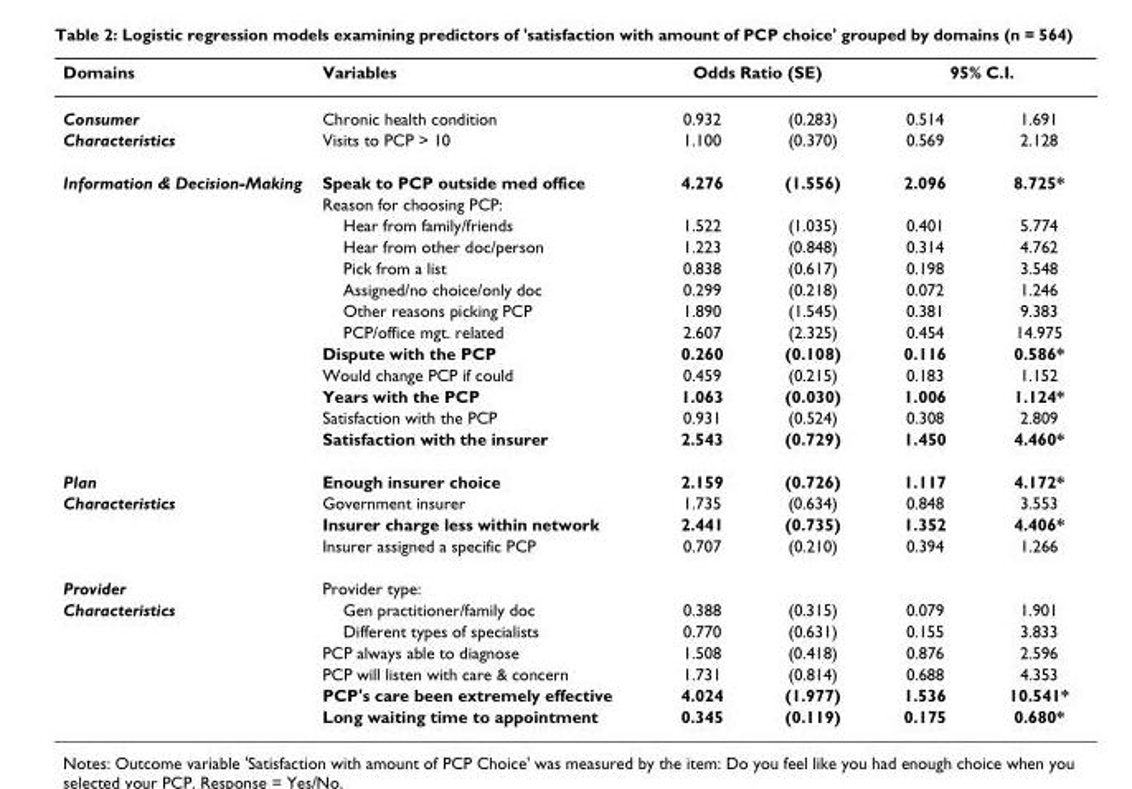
<table><thead><tr><td rowspan="2">Domains Consumer</td><td rowspan="2">Variables Chronic health condition</td><td colspan="2">Odds Ratio (SE)</td><td colspan="2">95% C.I.</td></tr><tr><td>0.932</td><td>(0.283)</td><td>0.514</td><td>1.691</td></tr></thead><tbody><tr><td>Characteristics</td><td>Visits to PCP &gt; 10</td><td>1.100</td><td>(0.370)</td><td>0.569</td><td>2.128</td></tr><tr><td rowspan="13">Information &amp; Decision-Making</td><td>Speak to PCP outside med office</td><td>4.276</td><td>(1.556)</td><td>2.096</td><td>8.725*</td></tr><tr><td>Reason for choosing PCP:</td><td></td><td></td><td></td><td></td></tr><tr><td>Hear from family/friends</td><td>1.522</td><td>(1.035)</td><td>0.401</td><td>5.774</td></tr><tr><td>Hear from other doc/person</td><td>1.223</td><td>(0.848)</td><td>0.314</td><td>4.762</td></tr><tr><td>Pick from a list</td><td>0.838</td><td>(0.617)</td><td>0.198</td><td>3.548</td></tr><tr><td>Assigned/no choice/only doc</td><td>0.299</td><td>(0.218)</td><td>0.072</td><td>1.246</td></tr><tr><td>Other reasons picking PCP</td><td>1.890</td><td>(1.545)</td><td>0.381</td><td>9.383</td></tr><tr><td>PCP/office mgt. related</td><td>2.607</td><td>(2.325)</td><td>0.454</td><td>14.975</td></tr><tr><td>Dispute with the PCP</td><td>0.260</td><td>(0.108)</td><td>0.116</td><td>0.586*</td></tr><tr><td>Would change PCP if could</td><td>0.459</td><td>(0.215)</td><td>0.183</td><td>1.152</td></tr><tr><td>Years with the PCP</td><td>1.063</td><td>(0.030)</td><td>1.006</td><td>1.124*</td></tr><tr><td>Satisfaction with the PCP</td><td>0.931</td><td>(0.524)</td><td>0.308</td><td>2.809</td></tr><tr><td>Satisfaction with the insurer</td><td>2.543</td><td>(0.729)</td><td>1.450</td><td>4.460*</td></tr><tr><td>Plan</td><td>Enough insurer choice</td><td>2.159</td><td>(0.726)</td><td>1.117</td><td>4.172*</td></tr><tr><td rowspan="3">Characteristics</td><td>Government insurer</td><td>1.735</td><td>(0.634)</td><td>0.848</td><td>3.553</td></tr><tr><td>Insurer charge less within network</td><td>2.441</td><td>(0.735)</td><td>1.352</td><td>4.406*</td></tr><tr><td>Insurer assigned a specific PCP</td><td>0.707</td><td>(0.210)</td><td>0.394</td><td>1.266</td></tr><tr><td>Provider</td><td>Provider type:</td><td></td><td></td><td></td><td></td></tr><tr><td rowspan="6">Characteristics</td><td>Gen practitioner/family doc</td><td>0.388</td><td>(0.315)</td><td>0.079</td><td>1.901</td></tr><tr><td>Different types of specialists</td><td>0.770</td><td>(0.631)</td><td>0.155</td><td>3.833</td></tr><tr><td>PCP always able to diagnose</td><td>1.508</td><td>(0.418)</td><td>0.876</td><td>2.596</td></tr><tr><td>PCP will listen with care &amp; concern</td><td>1.731</td><td>(0.814)</td><td>0.688</td><td>4.353</td></tr><tr><td>PCP&#x27;s care been extremely effective</td><td>4.024</td><td>(1.977)</td><td>1.536</td><td>10.541*</td></tr><tr><td>Long waiting time to appointment</td><td>0.345</td><td>(0.119)</td><td>0.175</td><td>0.680*</td></tr></tbody></table>